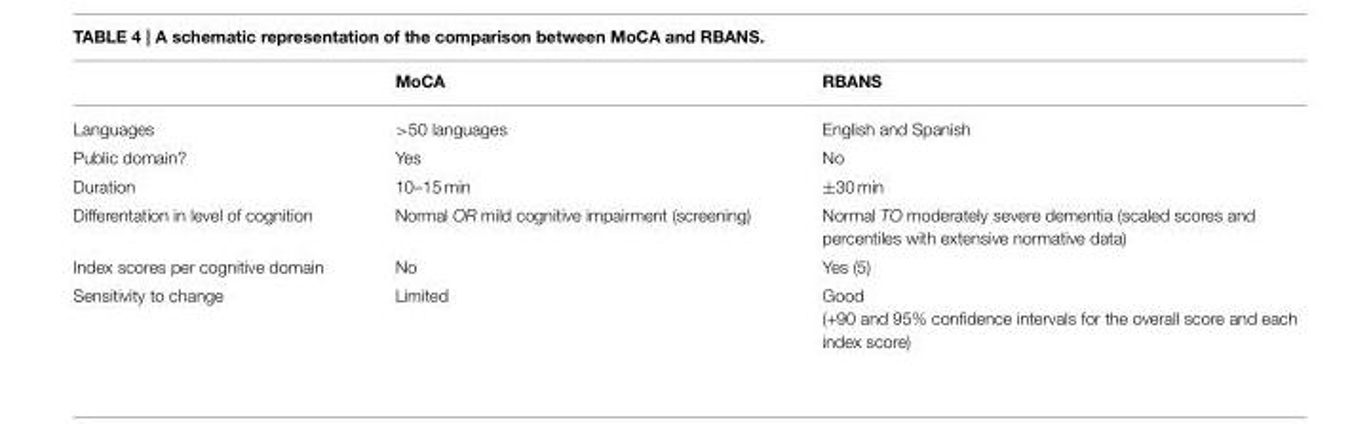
<table><thead><tr><td></td><td>MoCA</td><td>RBANS</td></tr></thead><tbody><tr><td>Languages</td><td>&gt;50 languages</td><td>English and Spanish</td></tr><tr><td>Public domain?</td><td>Yes</td><td>No</td></tr><tr><td>Duration</td><td>10–15 min</td><td>±30 min</td></tr><tr><td>Differentation in level of cognition</td><td>Normal OR mild cognitive impairment (screening)</td><td>Normal TO moderately severe dementia (scaled scores and percentiles with extensive normative data)</td></tr><tr><td>Index scores per cognitive domain</td><td>No</td><td>Yes (5)</td></tr><tr><td>Sensitivity to change</td><td>Limited</td><td>Good (+90 and 95% confidence intervals for the overall score and each index score)</td></tr></tbody></table>